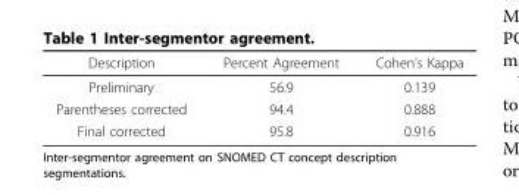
<table><thead><tr><td>Description</td><td>Percent Agreement</td><td>Cohen’s Kappa</td></tr></thead><tbody><tr><td>Preliminary</td><td>56.9</td><td>0.139</td></tr><tr><td>Parentheses corrected</td><td>94.4</td><td>0.888</td></tr><tr><td>Final corrected</td><td>95.8</td><td>0.916</td></tr></tbody></table>